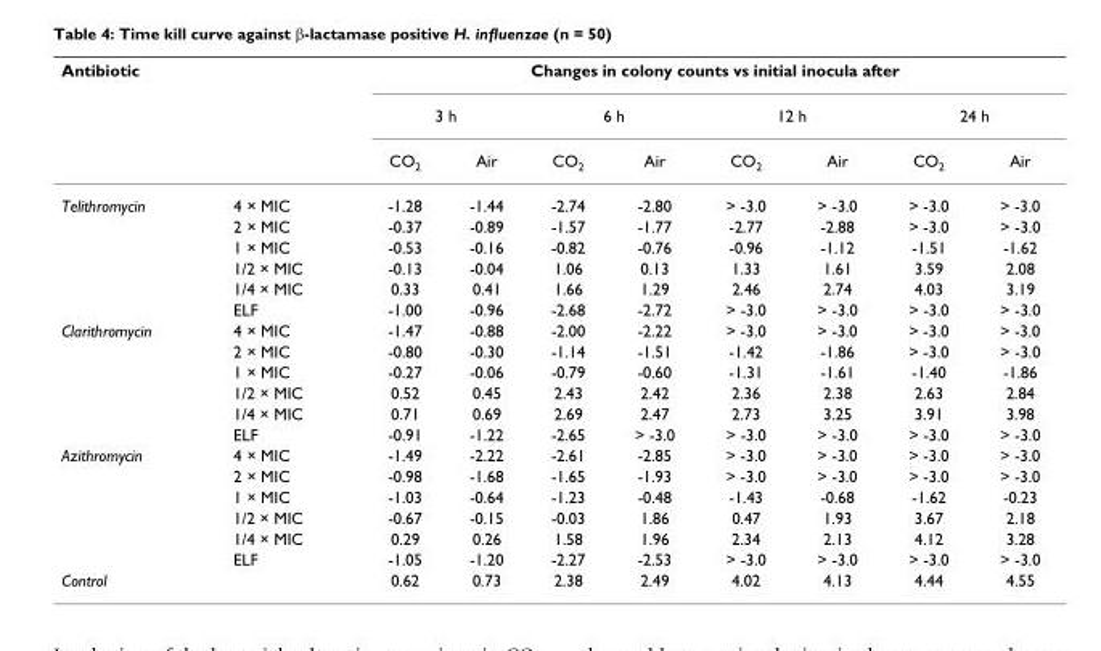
<table><thead><tr><td rowspan="3">Antibiotic</td><td rowspan="3"></td><td colspan="8">Changes in colony counts vs initial inocula after</td></tr><tr><td colspan="2">3 h</td><td colspan="2">6 h</td><td colspan="2">12 h</td><td colspan="2">24 h</td></tr><tr><td>CO<sub>2</sub></td><td>Air</td><td>CO<sub>2</sub></td><td>Air</td><td>CO<sub>2</sub></td><td>Air</td><td>CO<sub>2</sub></td><td>Air</td></tr></thead><tbody><tr><td rowspan="6">Telithromycin</td><td>4 × MIC</td><td>-1.28</td><td>-1.44</td><td>-2.74</td><td>-2.80</td><td>&gt; -3.0</td><td>&gt; -3.0</td><td>&gt; -3.0</td><td>&gt; -3.0</td></tr><tr><td>2 × MIC</td><td>-0.37</td><td>-0.89</td><td>-1.57</td><td>-1.77</td><td>-2.77</td><td>-2.88</td><td>&gt; -3.0</td><td>&gt; -3.0</td></tr><tr><td>1 × MIC</td><td>-0.53</td><td>-0.16</td><td>-0.82</td><td>-0.76</td><td>-0.96</td><td>-1.12</td><td>-1.51</td><td>-1.62</td></tr><tr><td>1/2 × MIC</td><td>-0.13</td><td>-0.04</td><td>1.06</td><td>0.13</td><td>1.33</td><td>1.61</td><td>3.59</td><td>2.08</td></tr><tr><td>1/4 × MIC</td><td>0.33</td><td>0.41</td><td>1.66</td><td>1.29</td><td>2.46</td><td>2.74</td><td>4.03</td><td>3.19</td></tr><tr><td>ELF</td><td>-1.00</td><td>-0.96</td><td>-2.68</td><td>-2.72</td><td>&gt; -3.0</td><td>&gt; -3.0</td><td>&gt; -3.0</td><td>&gt; -3.0</td></tr><tr><td rowspan="6">Clarithromycin</td><td>4 × MIC</td><td>-1.47</td><td>-0.88</td><td>-2.00</td><td>-2.22</td><td>&gt; -3.0</td><td>&gt; -3.0</td><td>&gt; -3.0</td><td>&gt; -3.0</td></tr><tr><td>2 × MIC</td><td>-0.80</td><td>-0.30</td><td>-1.14</td><td>-1.51</td><td>-1.42</td><td>-1.86</td><td>&gt; -3.0</td><td>&gt; -3.0</td></tr><tr><td>1 × MIC</td><td>-0.27</td><td>-0.06</td><td>-0.79</td><td>-0.60</td><td>-1.31</td><td>-1.61</td><td>-1.40</td><td>-1.86</td></tr><tr><td>1/2 × MIC</td><td>0.52</td><td>0.45</td><td>2.43</td><td>2.42</td><td>2.36</td><td>2.38</td><td>2.63</td><td>2.84</td></tr><tr><td>1/4 × MIC</td><td>0.71</td><td>0.69</td><td>2.69</td><td>2.47</td><td>2.73</td><td>3.25</td><td>3.91</td><td>3.98</td></tr><tr><td>ELF</td><td>-0.91</td><td>-1.22</td><td>-2.65</td><td>&gt; -3.0</td><td>&gt; -3.0</td><td>&gt; -3.0</td><td>&gt; -3.0</td><td>&gt; -3.0</td></tr><tr><td rowspan="6">Azithromycin</td><td>4 × MIC</td><td>-1.49</td><td>-2.22</td><td>-2.61</td><td>-2.85</td><td>&gt; -3.0</td><td>&gt; -3.0</td><td>&gt; -3.0</td><td>&gt; -3.0</td></tr><tr><td>2 × MIC</td><td>-0.98</td><td>-1.68</td><td>-1.65</td><td>-1.93</td><td>&gt; -3.0</td><td>&gt; -3.0</td><td>&gt; -3.0</td><td>&gt; -3.0</td></tr><tr><td>1 × MIC</td><td>-1.03</td><td>-0.64</td><td>-1.23</td><td>-0.48</td><td>-1.43</td><td>-0.68</td><td>-1.62</td><td>-0.23</td></tr><tr><td>1/2 × MIC</td><td>-0.67</td><td>-0.15</td><td>-0.03</td><td>1.86</td><td>0.47</td><td>1.93</td><td>3.67</td><td>2.18</td></tr><tr><td>1/4 × MIC</td><td>0.29</td><td>0.26</td><td>1.58</td><td>1.96</td><td>2.34</td><td>2.13</td><td>4.12</td><td>3.28</td></tr><tr><td>ELF</td><td>-1.05</td><td>-1.20</td><td>-2.27</td><td>-2.53</td><td>&gt; -3.0</td><td>&gt; -3.0</td><td>&gt; -3.0</td><td>&gt; -3.0</td></tr><tr><td>Control</td><td></td><td>0.62</td><td>0.73</td><td>2.38</td><td>2.49</td><td>4.02</td><td>4.13</td><td>4.44</td><td>4.55</td></tr></tbody></table>